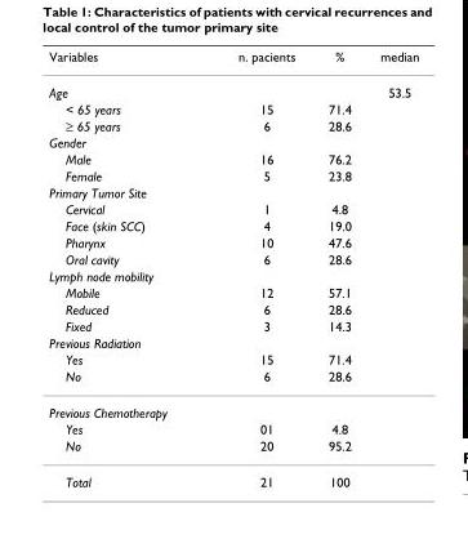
<table><thead><tr><td>Variables</td><td>n. pacients</td><td>%</td><td>median</td></tr></thead><tbody><tr><td>Age</td><td></td><td></td><td>53.5</td></tr><tr><td>&lt; 65 years</td><td>15</td><td>71.4</td><td></td></tr><tr><td>≥ 65 years</td><td>6</td><td>28.6</td><td></td></tr><tr><td colspan="4">Gender</td></tr><tr><td>Male</td><td>16</td><td>76.2</td><td></td></tr><tr><td>Female</td><td>5</td><td>23.8</td><td></td></tr><tr><td colspan="4">Primary Tumor Site</td></tr><tr><td>Cervical</td><td>1</td><td>4.8</td><td></td></tr><tr><td>Face (skin SCC)</td><td>4</td><td>19.0</td><td></td></tr><tr><td>Pharynx</td><td>10</td><td>47.6</td><td></td></tr><tr><td>Oral cavity</td><td>6</td><td>28.6</td><td></td></tr><tr><td colspan="4">Lymph node mobility</td></tr><tr><td>Mobile</td><td>12</td><td>57.1</td><td></td></tr><tr><td>Reduced</td><td>6</td><td>28.6</td><td></td></tr><tr><td>Fixed</td><td>3</td><td>14.3</td><td></td></tr><tr><td colspan="4">Previous Radiation</td></tr><tr><td>Yes</td><td>15</td><td>71.4</td><td></td></tr><tr><td>No</td><td>6</td><td>28.6</td><td></td></tr><tr><td colspan="4">Previous Chemotherapy</td></tr><tr><td>Yes</td><td>01</td><td>4.8</td><td></td></tr><tr><td>No</td><td>20</td><td>95.2</td><td></td></tr><tr><td>Total</td><td>21</td><td>100</td><td></td></tr></tbody></table>